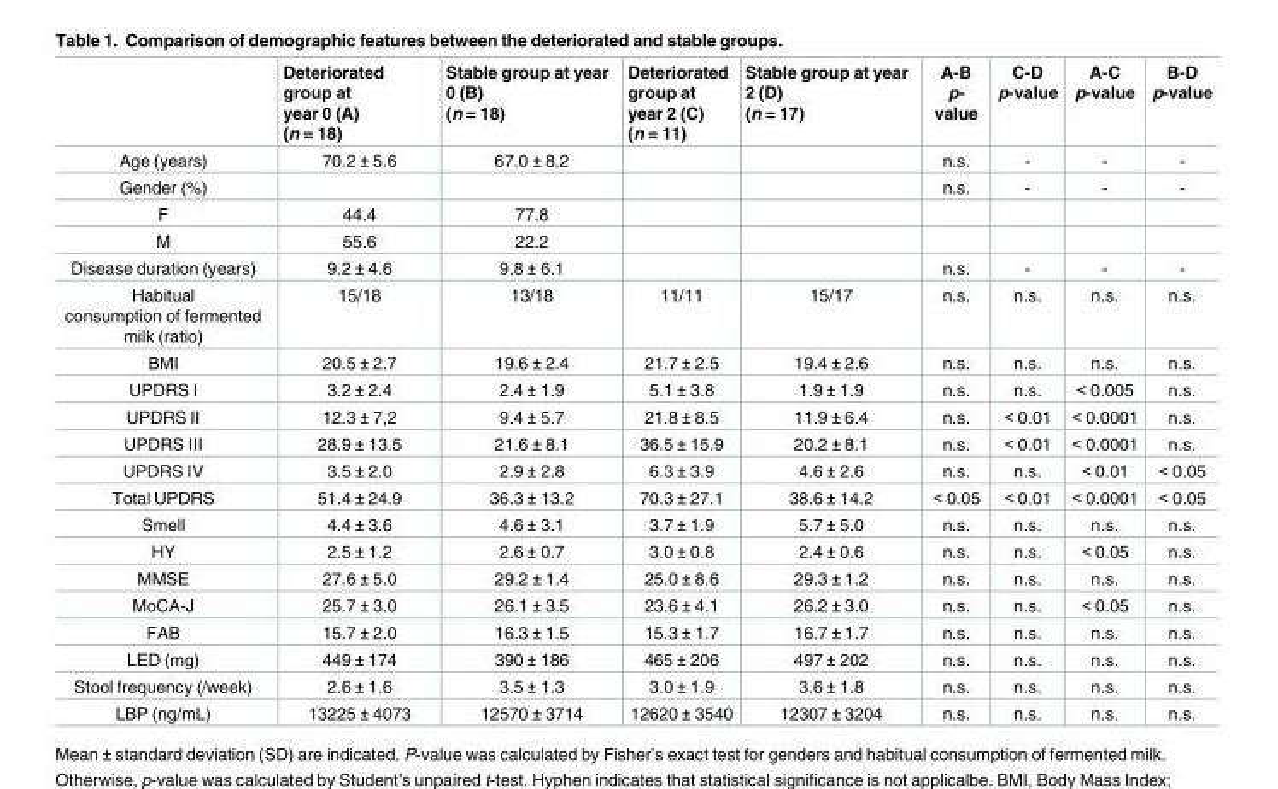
<table><thead><tr><td></td><td>Deteriorated group at year 0 (A) (n = 18)</td><td>Stable group at year 0 (B) (n = 18)</td><td>Deteriorated group at year 2 (C) (n = 11)</td><td>Stable group at year 2 (D) (n = 17)</td><td>A-B p- value</td><td>C-D p-value</td><td>A-C p-value</td><td>B-D p-value</td></tr></thead><tbody><tr><td>Age (years)</td><td>70.2 ± 5.6</td><td>67.0 ± 8.2</td><td></td><td></td><td>n.s.</td><td>-</td><td>-</td><td>-</td></tr><tr><td>Gender (%)</td><td></td><td></td><td></td><td></td><td>n.s.</td><td>-</td><td>-</td><td>-</td></tr><tr><td>F</td><td>44.4</td><td>77.8</td><td></td><td></td><td></td><td></td><td></td><td></td></tr><tr><td>M</td><td>55.6</td><td>22.2</td><td></td><td></td><td></td><td></td><td></td><td></td></tr><tr><td>Disease duration (years)</td><td>9.2 ± 4.6</td><td>9.8 ± 6.1</td><td></td><td></td><td>n.s.</td><td>-</td><td>-</td><td>-</td></tr><tr><td>Habitual consumption of fermented milk (ratio)</td><td>15/18</td><td>13/18</td><td>11/11</td><td>15/17</td><td>n.s.</td><td>n.s.</td><td>n.s.</td><td>n.s.</td></tr><tr><td>BMI</td><td>20.5 ± 2.7</td><td>19.6 ± 2.4</td><td>21.7 ± 2.5</td><td>19.4 ± 2.6</td><td>n.s.</td><td>n.s.</td><td>n.s.</td><td>n.s.</td></tr><tr><td>UPDRS I</td><td>3.2 ± 2.4</td><td>2.4 ± 1.9</td><td>5.1 ± 3.8</td><td>1.9 ± 1.9</td><td>n.s.</td><td>n.s.</td><td>&lt; 0.005</td><td>n.s.</td></tr><tr><td>UPDRS II</td><td>12.3 ± 7,2</td><td>9.4 ± 5.7</td><td>21.8 ± 8.5</td><td>11.9 ± 6.4</td><td>n.s.</td><td>&lt; 0.01</td><td>&lt; 0.0001</td><td>n.s.</td></tr><tr><td>UPDRS III</td><td>28.9 ± 13.5</td><td>21.6 ± 8.1</td><td>36.5 ± 15.9</td><td>20.2 ± 8.1</td><td>n.s.</td><td>&lt; 0.01</td><td>&lt; 0.0001</td><td>n.s.</td></tr><tr><td>UPDRS IV</td><td>3.5 ± 2.0</td><td>2.9 ± 2.8</td><td>6.3 ± 3.9</td><td>4.6 ± 2.6</td><td>n.s.</td><td>n.s.</td><td>&lt; 0.01</td><td>&lt; 0.05</td></tr><tr><td>Total UPDRS</td><td>51.4 ± 24.9</td><td>36.3 ± 13.2</td><td>70.3 ± 27.1</td><td>38.6 ± 14.2</td><td>&lt; 0.05</td><td>&lt; 0.01</td><td>&lt; 0.0001</td><td>&lt; 0.05</td></tr><tr><td>Smell</td><td>4.4 ± 3.6</td><td>4.6 ± 3.1</td><td>3.7 ± 1.9</td><td>5.7 ± 5.0</td><td>n.s.</td><td>n.s.</td><td>n.s.</td><td>n.s.</td></tr><tr><td>HY</td><td>2.5 ± 1.2</td><td>2.6 ± 0.7</td><td>3.0 ± 0.8</td><td>2.4 ± 0.6</td><td>n.s.</td><td>n.s.</td><td>&lt; 0.05</td><td>n.s.</td></tr><tr><td>MMSE</td><td>27.6 ± 5.0</td><td>29.2 ± 1.4</td><td>25.0 ± 8.6</td><td>29.3 ± 1.2</td><td>n.s.</td><td>n.s.</td><td>n.s.</td><td>n.s.</td></tr><tr><td>MoCA-J</td><td>25.7 ± 3.0</td><td>26.1 ± 3.5</td><td>23.6 ± 4.1</td><td>26.2 ± 3.0</td><td>n.s.</td><td>n.s.</td><td>&lt; 0.05</td><td>n.s.</td></tr><tr><td>FAB</td><td>15.7 ± 2.0</td><td>16.3 ± 1.5</td><td>15.3 ± 1.7</td><td>16.7 ± 1.7</td><td>n.s.</td><td>n.s.</td><td>n.s.</td><td>n.s.</td></tr><tr><td>LED (mg)</td><td>449 ± 174</td><td>390 ± 186</td><td>465 ± 206</td><td>497 ± 202</td><td>n.s.</td><td>n.s.</td><td>n.s.</td><td>n.s.</td></tr><tr><td>Stool frequency (/week)</td><td>2.6 ± 1.6</td><td>3.5 ± 1.3</td><td>3.0 ± 1.9</td><td>3.6 ± 1.8</td><td>n.s.</td><td>n.s.</td><td>n.s.</td><td>n.s.</td></tr><tr><td>LBP (ng/mL)</td><td>13225 ± 4073</td><td>12570 ± 3714</td><td>12620 ± 3540</td><td>12307 ± 3204</td><td>n.s.</td><td>n.s.</td><td>n.s.</td><td>n.s.</td></tr></tbody></table>